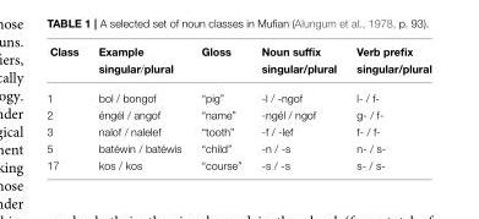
<table><thead><tr><td rowspan="2">Class</td><td rowspan="2">Example singular/plural</td><td rowspan="2">Gloss</td><td rowspan="2">Noun suffix singular/plural</td><td rowspan="2">Verb prefix singular/plural</td></tr><tr></tr></thead><tbody><tr><td>1</td><td>bol / bongof</td><td>“pig”</td><td>-l / -ngof</td><td>l- / f-</td></tr><tr><td>2</td><td>éngél / angof</td><td>“name”</td><td>-ngél / ngof</td><td>g- / f-</td></tr><tr><td>3</td><td>nalof / nalelef</td><td>“tooth”</td><td>-f / -lef</td><td>f- / f-</td></tr><tr><td>5</td><td>batéwin / batéwis</td><td>“child”</td><td>-n / -s</td><td>n- / s-</td></tr><tr><td>17</td><td>kos / kos</td><td>“course”</td><td>-s / -s</td><td>s- / s-</td></tr></tbody></table>